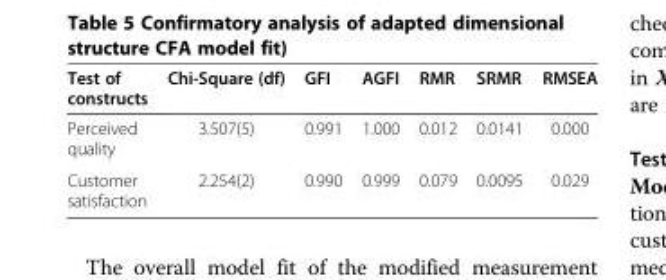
<table><thead><tr><td>Test of constructs</td><td>Chi-Square (df)</td><td>GFI</td><td>AGFI</td><td>RMR</td><td>SRMR</td><td>RMSEA</td></tr></thead><tbody><tr><td>Perceived quality</td><td>3.507(5)</td><td>0.991</td><td>1.000</td><td>0.012</td><td>0.0141</td><td>0.000</td></tr><tr><td>Customer satisfaction</td><td>2.254(2)</td><td>0.990</td><td>0.999</td><td>0.079</td><td>0.0095</td><td>0.029</td></tr></tbody></table>